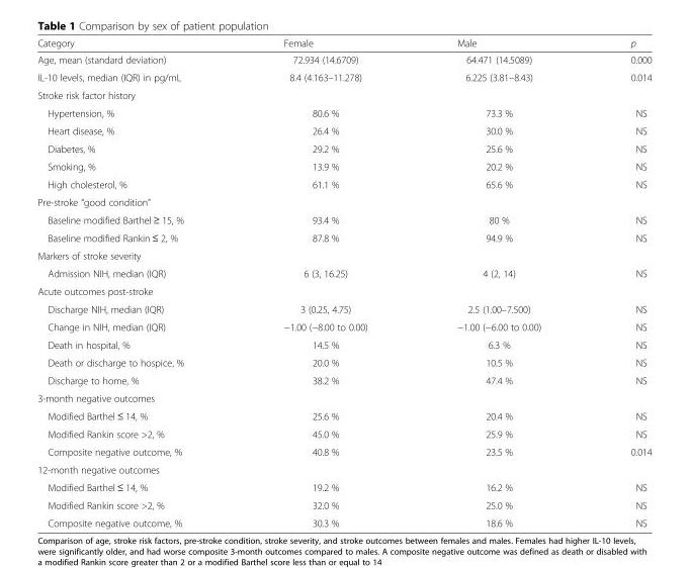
<table><thead><tr><td>Category</td><td>Female</td><td>Male</td><td>p</td></tr></thead><tbody><tr><td>Age, mean (standard deviation)</td><td>72.934 (14.6709)</td><td>64.471 (14.5089)</td><td>0.000</td></tr><tr><td>IL-10 levels, median (IQR) in pg/mL</td><td>8.4 (4.163–11.278)</td><td>6.225 (3.81–8.43)</td><td>0.014</td></tr><tr><td colspan="4">Stroke risk factor history</td></tr><tr><td>Hypertension, %</td><td>80.6 %</td><td>73.3 %</td><td>NS</td></tr><tr><td>Heart disease, %</td><td>26.4 %</td><td>30.0 %</td><td>NS</td></tr><tr><td>Diabetes, %</td><td>29.2 %</td><td>25.6 %</td><td>NS</td></tr><tr><td>Smoking, %</td><td>13.9 %</td><td>20.2 %</td><td>NS</td></tr><tr><td>High cholesterol, %</td><td>61.1 %</td><td>65.6 %</td><td>NS</td></tr><tr><td colspan="4">Pre-stroke “good condition”</td></tr><tr><td>Baseline modified Barthel ≥ 15, %</td><td>93.4 %</td><td>80 %</td><td>NS</td></tr><tr><td>Baseline modified Rankin ≤ 2, %</td><td>87.8 %</td><td>94.9 %</td><td>NS</td></tr><tr><td colspan="4">Markers of stroke severity</td></tr><tr><td>Admission NIH, median (IQR)</td><td>6 (3, 16.25)</td><td>4 (2, 14)</td><td>NS</td></tr><tr><td colspan="4">Acute outcomes post-stroke</td></tr><tr><td>Discharge NIH, median (IQR)</td><td>3 (0.25, 4.75)</td><td>2.5 (1.00–7.500)</td><td>NS</td></tr><tr><td>Change in NIH, median (IQR)</td><td>−1.00 (−8.00 to 0.00)</td><td>−1.00 (−6.00 to 0.00)</td><td>NS</td></tr><tr><td>Death in hospital, %</td><td>14.5 %</td><td>6.3 %</td><td>NS</td></tr><tr><td>Death or discharge to hospice, %</td><td>20.0 %</td><td>10.5 %</td><td>NS</td></tr><tr><td>Discharge to home, %</td><td>38.2 %</td><td>47.4 %</td><td>NS</td></tr><tr><td colspan="4">3-month negative outcomes</td></tr><tr><td>Modified Barthel ≤ 14, %</td><td>25.6 %</td><td>20.4 %</td><td>NS</td></tr><tr><td>Modified Rankin score &gt;2, %</td><td>45.0 %</td><td>25.9 %</td><td>NS</td></tr><tr><td>Composite negative outcome, %</td><td>40.8 %</td><td>23.5 %</td><td>0.014</td></tr><tr><td colspan="4">12-month negative outcomes</td></tr><tr><td>Modified Barthel ≤ 14, %</td><td>19.2 %</td><td>16.2 %</td><td>NS</td></tr><tr><td>Modified Rankin score &gt;2, %</td><td>32.0 %</td><td>25.0 %</td><td>NS</td></tr><tr><td>Composite negative outcome, %</td><td>30.3 %</td><td>18.6 %</td><td>NS</td></tr></tbody></table>